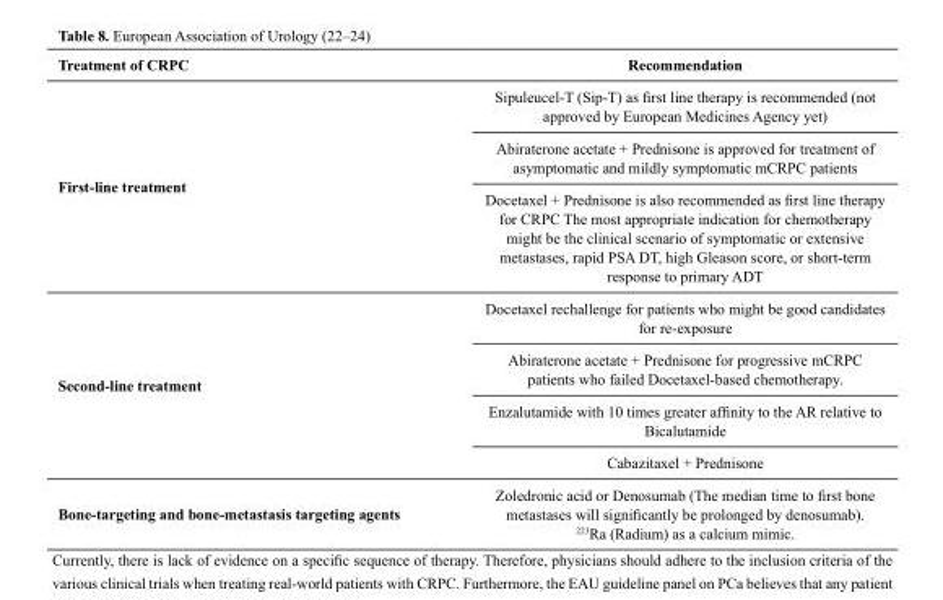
<table><thead><tr><td>Treatment of CRPC</td><td>Recommendation</td></tr></thead><tbody><tr><td rowspan="3">First-line treatment</td><td>Sipuleucel-T (Sip-T) as first line therapy is recommended (not approved by European Medicines Agency yet)</td></tr><tr><td>Abiraterone acetate + Prednisone is approved for treatment of asymptomatic and mildly symptomatic mCRPC patients</td></tr><tr><td>Docetaxel + Prednisone is also recommended as first line therapy for CRPC The most appropriate indication for chemotherapy might be the clinical scenario of symptomatic or extensive metastases, rapid PSA DT, high Gleason score, or short-term response to primary ADT</td></tr><tr><td rowspan="4">Second-line treatment</td><td>Docetaxel rechallenge for patients who might be good candidates for re-exposure</td></tr><tr><td>Abiraterone acetate + Prednisone for progressive mCRPC patients who failed Docetaxel-based chemotherapy.</td></tr><tr><td>Enzalutamide with 10 times greater affinity to the AR relative to Bicalutamide</td></tr><tr><td>Cabazitaxel + Prednisone</td></tr><tr><td>Bone-targeting and bone-metastasis targeting agents</td><td>Zoledronic acid or Denosumab (The median time to first bone metastases will significantly be prolonged by denosumab). <sup>223</sup>Ra (Radium) as a calcium mimic.</td></tr></tbody></table>